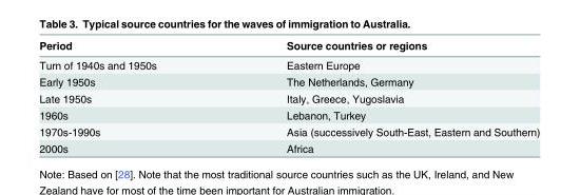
<table><thead><tr><td>Period</td><td>Source countries or regions</td></tr></thead><tbody><tr><td>Turn of 1940s and 1950s</td><td>Eastern Europe</td></tr><tr><td>Early 1950s</td><td>The Netherlands, Germany</td></tr><tr><td>Late 1950s</td><td>Italy, Greece, Yugoslavia</td></tr><tr><td>1960s</td><td>Lebanon, Turkey</td></tr><tr><td>1970s-1990s</td><td>Asia (successively South-East, Eastern and Southern)</td></tr><tr><td>2000s</td><td>Africa</td></tr></tbody></table>